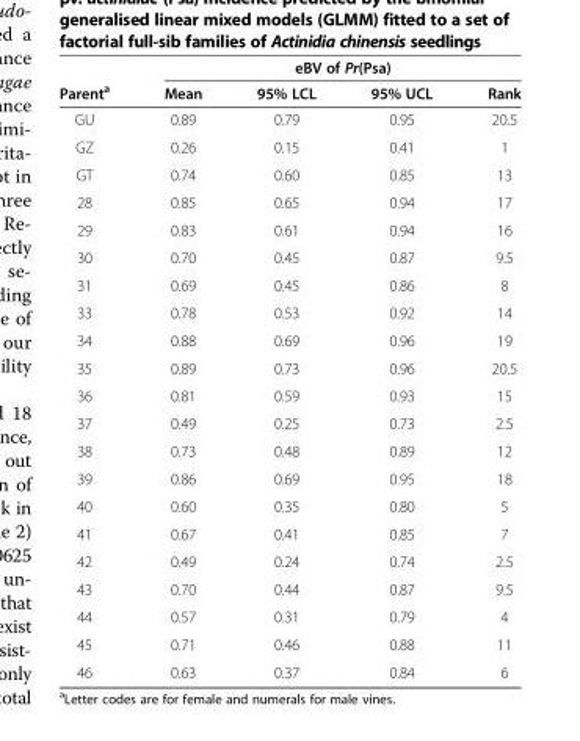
<table><thead><tr><td rowspan="2">Parent<sup>a</sup></td><td colspan="4">eBV of Pr(Psa)</td></tr><tr><td>Mean</td><td>95% LCL</td><td>95% UCL</td><td>Rank</td></tr></thead><tbody><tr><td>GU</td><td>0.89</td><td>0.79</td><td>0.95</td><td>20.5</td></tr><tr><td>GZ</td><td>0.26</td><td>0.15</td><td>0.41</td><td>1</td></tr><tr><td>GT</td><td>0.74</td><td>0.60</td><td>0.85</td><td>13</td></tr><tr><td>28</td><td>0.85</td><td>0.65</td><td>0.94</td><td>17</td></tr><tr><td>29</td><td>0.83</td><td>0.61</td><td>0.94</td><td>16</td></tr><tr><td>30</td><td>0.70</td><td>0.45</td><td>0.87</td><td>9.5</td></tr><tr><td>31</td><td>0.69</td><td>0.45</td><td>0.86</td><td>8</td></tr><tr><td>33</td><td>0.78</td><td>0.53</td><td>0.92</td><td>14</td></tr><tr><td>34</td><td>0.88</td><td>0.69</td><td>0.96</td><td>19</td></tr><tr><td>35</td><td>0.89</td><td>0.73</td><td>0.96</td><td>20.5</td></tr><tr><td>36</td><td>0.81</td><td>0.59</td><td>0.93</td><td>15</td></tr><tr><td>37</td><td>0.49</td><td>0.25</td><td>0.73</td><td>2.5</td></tr><tr><td>38</td><td>0.73</td><td>0.48</td><td>0.89</td><td>12</td></tr><tr><td>39</td><td>0.86</td><td>0.69</td><td>0.95</td><td>18</td></tr><tr><td>40</td><td>0.60</td><td>0.35</td><td>0.80</td><td>5</td></tr><tr><td>41</td><td>0.67</td><td>0.41</td><td>0.85</td><td>7</td></tr><tr><td>42</td><td>0.49</td><td>0.24</td><td>0.74</td><td>2.5</td></tr><tr><td>43</td><td>0.70</td><td>0.44</td><td>0.87</td><td>9.5</td></tr><tr><td>44</td><td>0.57</td><td>0.31</td><td>0.79</td><td>4</td></tr><tr><td>45</td><td>0.71</td><td>0.46</td><td>0.88</td><td>11</td></tr><tr><td>46</td><td>0.63</td><td>0.37</td><td>0.84</td><td>6</td></tr></tbody></table>